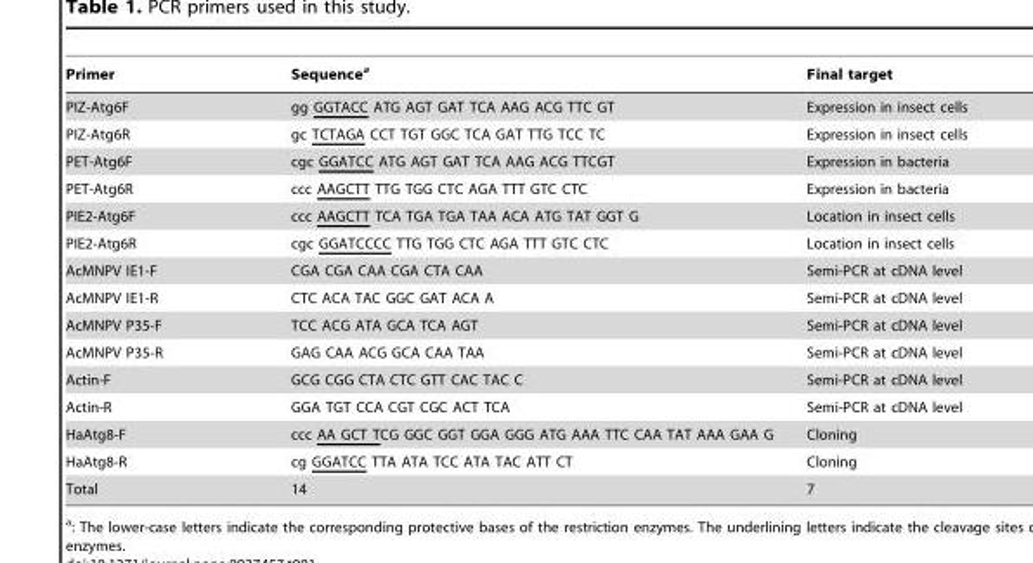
<table><thead><tr><td>Primer</td><td>Sequence<sup>a</sup></td><td>Final target</td></tr></thead><tbody><tr><td>PIZ-Atg6F</td><td>gg GGTACC ATG AGT GAT TCA AAG ACG TTC GT</td><td>Expression in insect cells</td></tr><tr><td>PIZ-Atg6R</td><td>gc TCTAGA CCT TGT GGC TCA GAT TTG TCC TC</td><td>Expression in insect cells</td></tr><tr><td>PET-Atg6F</td><td>cgc GGATCC ATG AGT GAT TCA AAG ACG TTCGT</td><td>Expression in bacteria</td></tr><tr><td>PET-Atg6R</td><td>ccc AAGCTT TTG TGG CTC AGA TTT GTC CTC</td><td>Expression in bacteria</td></tr><tr><td>PIE2-Atg6F</td><td>ccc AAGCTT TCA TGA TGA TAA ACA ATG TAT GGT G</td><td>Location in insect cells</td></tr><tr><td>PIE2-Atg6R</td><td>cgc GGATCCCC TTG TGG CTC AGA TTT GTC CTC</td><td>Location in insect cells</td></tr><tr><td>AcMNPV IE1-F</td><td>CGA CGA CAA CGA CTA CAA</td><td>Semi-PCR at cDNA level</td></tr><tr><td>AcMNPV IE1-R</td><td>CTC ACA TAC GGC GAT ACA A</td><td>Semi-PCR at cDNA level</td></tr><tr><td>AcMNPV P35-F</td><td>TCC ACG ATA GCA TCA AGT</td><td>Semi-PCR at cDNA level</td></tr><tr><td>AcMNPV P35-R</td><td>GAG CAA ACG GCA CAA TAA</td><td>Semi-PCR at cDNA level</td></tr><tr><td>Actin-F</td><td>GCG CGG CTA CTC GTT CAC TAC C</td><td>Semi-PCR at cDNA level</td></tr><tr><td>Actin-R</td><td>GGA TGT CCA CGT CGC ACT TCA</td><td>Semi-PCR at cDNA level</td></tr><tr><td>HaAtg8-F</td><td>ccc AA GCT TCG GGC GGT GGA GGG ATG AAA TTC CAA TAT AAA GAA G</td><td>Cloning</td></tr><tr><td>HaAtg8-R</td><td>cg GGATCC TTA ATA TCC ATA TAC ATT CT</td><td>Cloning</td></tr><tr><td>Total</td><td>14</td><td>7</td></tr></tbody></table>